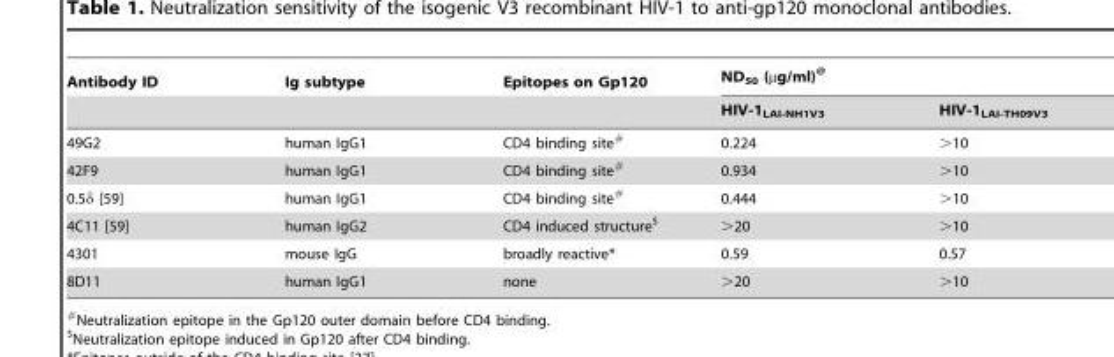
<table><thead><tr><td rowspan="2">Antibody ID</td><td rowspan="2">Ig subtype</td><td rowspan="2">Epitopes on Gp120</td><td colspan="2">ND<sub>50</sub> (µg/ml)@</td></tr><tr><td>HIV-1<sub>LAI-NH1V3</sub></td><td>HIV-1<sub>LAI-TH09V3</sub></td></tr></thead><tbody><tr><td>49G2</td><td>human IgG1</td><td>CD4 binding site#</td><td>0.224</td><td>&gt;10</td></tr><tr><td>42F9</td><td>human IgG1</td><td>CD4 binding site#</td><td>0.934</td><td>&gt;10</td></tr><tr><td>0.5δ [59]</td><td>human IgG1</td><td>CD4 binding site#</td><td>0.444</td><td>&gt;10</td></tr><tr><td>4C11 [59]</td><td>human IgG2</td><td>CD4 induced structure$</td><td>&gt;20</td><td>&gt;10</td></tr><tr><td>4301</td><td>mouse IgG</td><td>broadly reactive*</td><td>0.59</td><td>0.57</td></tr><tr><td>8D11</td><td>human IgG1</td><td>none</td><td>&gt;20</td><td>&gt;10</td></tr></tbody></table>